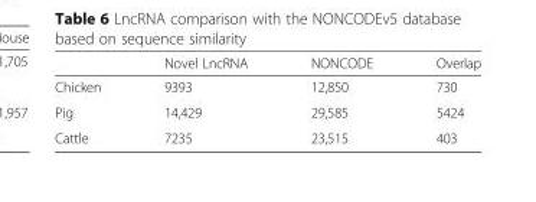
<table><thead><tr><td></td><td>Novel LncRNA</td><td>NONCODE</td><td>Overlap</td></tr></thead><tbody><tr><td>Chicken</td><td>9393</td><td>12,850</td><td>730</td></tr><tr><td>Pig</td><td>14,429</td><td>29,585</td><td>5424</td></tr><tr><td>Cattle</td><td>7235</td><td>23,515</td><td>403</td></tr></tbody></table>